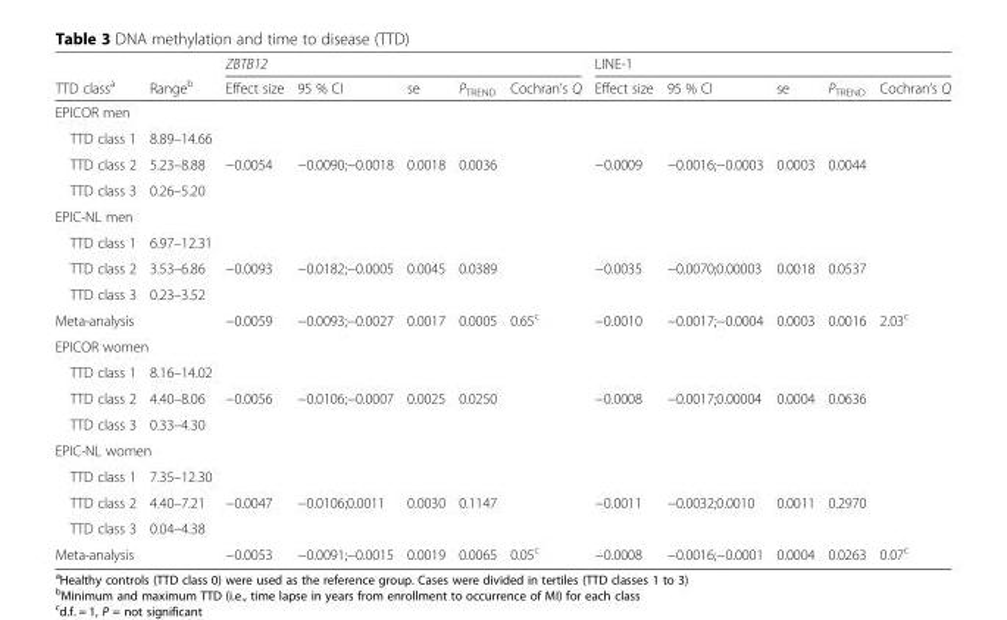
<table><thead><tr><td rowspan="2">TTD class<sup>a</sup></td><td rowspan="2">Range<sup>b</sup></td><td rowspan="2">ZBTB12 Effect size</td><td rowspan="2">95 % CI</td><td rowspan="2">se</td><td rowspan="2">P<sub>TREND</sub></td><td rowspan="2">Cochran’s Q</td><td rowspan="2">LINE-1 Effect size</td><td rowspan="2">95 % CI</td><td rowspan="2">se</td><td rowspan="2">P<sub>TREND</sub></td><td rowspan="2">Cochran’s Q</td></tr><tr></tr></thead><tbody><tr><td colspan="12">EPICOR men</td></tr><tr><td>TTD class 1</td><td>8.89–14.66</td><td></td><td></td><td></td><td></td><td></td><td></td><td></td><td></td><td></td><td></td></tr><tr><td>TTD class 2</td><td>5.23–8.88</td><td>−0.0054</td><td>−0.0090;−0.0018</td><td>0.0018</td><td>0.0036</td><td></td><td>−0.0009</td><td>−0.0016;−0.0003</td><td>0.0003</td><td>0.0044</td><td></td></tr><tr><td>TTD class 3</td><td>0.26–5.20</td><td></td><td></td><td></td><td></td><td></td><td></td><td></td><td></td><td></td><td></td></tr><tr><td colspan="12">EPIC-NL men</td></tr><tr><td>TTD class 1</td><td>6.97–12.31</td><td></td><td></td><td></td><td></td><td></td><td></td><td></td><td></td><td></td><td></td></tr><tr><td>TTD class 2</td><td>3.53–6.86</td><td>−0.0093</td><td>−0.0182;−0.0005</td><td>0.0045</td><td>0.0389</td><td></td><td>−0.0035</td><td>−0.0070;0.00003</td><td>0.0018</td><td>0.0537</td><td></td></tr><tr><td>TTD class 3</td><td>0.23–3.52</td><td></td><td></td><td></td><td></td><td></td><td></td><td></td><td></td><td></td><td></td></tr><tr><td colspan="2">Meta-analysis</td><td>−0.0059</td><td>−0.0093;−0.0027</td><td>0.0017</td><td>0.0005</td><td>0.65<sup>c</sup></td><td>−0.0010</td><td>−0.0017;−0.0004</td><td>0.0003</td><td>0.0016</td><td>2.03<sup>c</sup></td></tr><tr><td colspan="12">EPICOR women</td></tr><tr><td>TTD class 1</td><td>8.16–14.02</td><td></td><td></td><td></td><td></td><td></td><td></td><td></td><td></td><td></td><td></td></tr><tr><td>TTD class 2</td><td>4.40–8.06</td><td>−0.0056</td><td>−0.0106;−0.0007</td><td>0.0025</td><td>0.0250</td><td></td><td>−0.0008</td><td>−0.0017;0.00004</td><td>0.0004</td><td>0.0636</td><td></td></tr><tr><td>TTD class 3</td><td>0.33–4.30</td><td></td><td></td><td></td><td></td><td></td><td></td><td></td><td></td><td></td><td></td></tr><tr><td colspan="12">EPIC-NL women</td></tr><tr><td>TTD class 1</td><td>7.35–12.30</td><td></td><td></td><td></td><td></td><td></td><td></td><td></td><td></td><td></td><td></td></tr><tr><td>TTD class 2</td><td>4.40–7.21</td><td>−0.0047</td><td>−0.0106;0.0011</td><td>0.0030</td><td>0.1147</td><td></td><td>−0.0011</td><td>−0.0032;0.0010</td><td>0.0011</td><td>0.2970</td><td></td></tr><tr><td>TTD class 3</td><td>0.04–4.38</td><td></td><td></td><td></td><td></td><td></td><td></td><td></td><td></td><td></td><td></td></tr><tr><td colspan="2">Meta-analysis</td><td>−0.0053</td><td>−0.0091;−0.0015</td><td>0.0019</td><td>0.0065</td><td>0.05<sup>c</sup></td><td>−0.0008</td><td>−0.0016;−0.0001</td><td>0.0004</td><td>0.0263</td><td>0.07<sup>c</sup></td></tr></tbody></table>